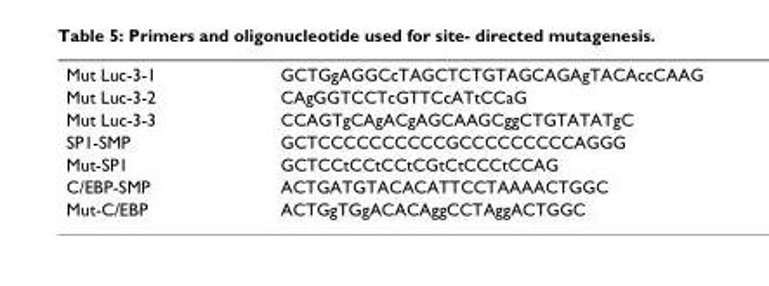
<table><tbody><tr><td>Mut Luc-3-1</td><td>GCTGgAGGCcTAGCTCTGTAGCAGAgTACAccCAAG</td></tr><tr><td>Mut Luc-3-2</td><td>CAgGGTCCTcGTTCcATtCCaG</td></tr><tr><td>Mut Luc-3-3</td><td>CCAGTgCAgACgAGCAAGCggCTGTATATgC</td></tr><tr><td>SP1-SMP</td><td>GCTCCCCCCCCCCGCCCCCCCCCAGGG</td></tr><tr><td>Mut-SP1</td><td>GCTCCtCCtCCtCGtCtCCCtCCAG</td></tr><tr><td>C/EBP-SMP</td><td>ACTGATGTACACATTCCTAAAACTGGC</td></tr><tr><td>Mut-C/EBP</td><td>ACTGgTGgACACAggCCTAggACTGGC</td></tr></tbody></table>